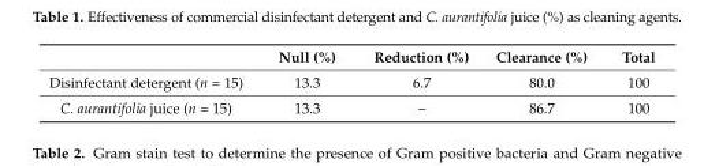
<table><thead><tr><td></td><td>Null (%)</td><td>Reduction (%)</td><td>Clearance (%)</td><td>Total</td></tr></thead><tbody><tr><td>Disinfectant detergent (n = 15)</td><td>13.3</td><td>6.7</td><td>80.0</td><td>100</td></tr><tr><td>C. aurantifolia juice (n = 15)</td><td>13.3</td><td>–</td><td>86.7</td><td>100</td></tr></tbody></table>